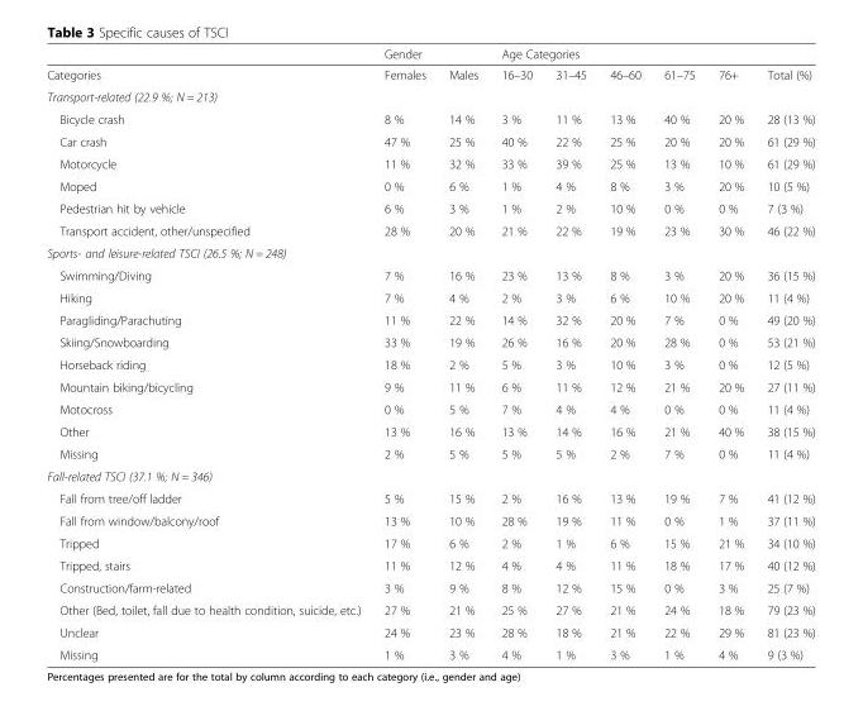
<table><thead><tr><td rowspan="2">Categories</td><td colspan="2">Gender</td><td colspan="6">Age Categories</td></tr><tr><td>Females</td><td>Males</td><td>16–30</td><td>31–45</td><td>46–60</td><td>61–75</td><td>76+</td><td>Total (%)</td></tr></thead><tbody><tr><td colspan="9">Transport-related (22.9 %; N = 213)</td></tr><tr><td>Bicycle crash</td><td>8 %</td><td>14 %</td><td>3 %</td><td>11 %</td><td>13 %</td><td>40 %</td><td>20 %</td><td>28 (13 %)</td></tr><tr><td>Car crash</td><td>47 %</td><td>25 %</td><td>40 %</td><td>22 %</td><td>25 %</td><td>20 %</td><td>20 %</td><td>61 (29 %)</td></tr><tr><td>Motorcycle</td><td>11 %</td><td>32 %</td><td>33 %</td><td>39 %</td><td>25 %</td><td>13 %</td><td>10 %</td><td>61 (29 %)</td></tr><tr><td>Moped</td><td>0 %</td><td>6 %</td><td>1 %</td><td>4 %</td><td>8 %</td><td>3 %</td><td>20 %</td><td>10 (5 %)</td></tr><tr><td>Pedestrian hit by vehicle</td><td>6 %</td><td>3 %</td><td>1 %</td><td>2 %</td><td>10 %</td><td>0 %</td><td>0 %</td><td>7 (3 %)</td></tr><tr><td>Transport accident, other/unspecified</td><td>28 %</td><td>20 %</td><td>21 %</td><td>22 %</td><td>19 %</td><td>23 %</td><td>30 %</td><td>46 (22 %)</td></tr><tr><td colspan="9">Sports- and leisure-related TSCI (26.5 %; N = 248)</td></tr><tr><td>Swimming/Diving</td><td>7 %</td><td>16 %</td><td>23 %</td><td>13 %</td><td>8 %</td><td>3 %</td><td>20 %</td><td>36 (15 %)</td></tr><tr><td>Hiking</td><td>7 %</td><td>4 %</td><td>2 %</td><td>3 %</td><td>6 %</td><td>10 %</td><td>20 %</td><td>11 (4 %)</td></tr><tr><td>Paragliding/Parachuting</td><td>11 %</td><td>22 %</td><td>14 %</td><td>32 %</td><td>20 %</td><td>7 %</td><td>0 %</td><td>49 (20 %)</td></tr><tr><td>Skiing/Snowboarding</td><td>33 %</td><td>19 %</td><td>26 %</td><td>16 %</td><td>20 %</td><td>28 %</td><td>0 %</td><td>53 (21 %)</td></tr><tr><td>Horseback riding</td><td>18 %</td><td>2 %</td><td>5 %</td><td>3 %</td><td>10 %</td><td>3 %</td><td>0 %</td><td>12 (5 %)</td></tr><tr><td>Mountain biking/bicycling</td><td>9 %</td><td>11 %</td><td>6 %</td><td>11 %</td><td>12 %</td><td>21 %</td><td>20 %</td><td>27 (11 %)</td></tr><tr><td>Motocross</td><td>0 %</td><td>5 %</td><td>7 %</td><td>4 %</td><td>4 %</td><td>0 %</td><td>0 %</td><td>11 (4 %)</td></tr><tr><td>Other</td><td>13 %</td><td>16 %</td><td>13 %</td><td>14 %</td><td>16 %</td><td>21 %</td><td>40 %</td><td>38 (15 %)</td></tr><tr><td>Missing</td><td>2 %</td><td>5 %</td><td>5 %</td><td>5 %</td><td>2 %</td><td>7 %</td><td>0 %</td><td>11 (4 %)</td></tr><tr><td colspan="9">Fall-related TSCI (37.1 %; N = 346)</td></tr><tr><td>Fall from tree/off ladder</td><td>5 %</td><td>15 %</td><td>2 %</td><td>16 %</td><td>13 %</td><td>19 %</td><td>7 %</td><td>41 (12 %)</td></tr><tr><td>Fall from window/balcony/roof</td><td>13 %</td><td>10 %</td><td>28 %</td><td>19 %</td><td>11 %</td><td>0 %</td><td>1 %</td><td>37 (11 %)</td></tr><tr><td>Tripped</td><td>17 %</td><td>6 %</td><td>2 %</td><td>1 %</td><td>6 %</td><td>15 %</td><td>21 %</td><td>34 (10 %)</td></tr><tr><td>Tripped, stairs</td><td>11 %</td><td>12 %</td><td>4 %</td><td>4 %</td><td>11 %</td><td>18 %</td><td>17 %</td><td>40 (12 %)</td></tr><tr><td>Construction/farm-related</td><td>3 %</td><td>9 %</td><td>8 %</td><td>12 %</td><td>15 %</td><td>0 %</td><td>3 %</td><td>25 (7 %)</td></tr><tr><td>Other (Bed, toilet, fall due to health condition, suicide, etc.)</td><td>27 %</td><td>21 %</td><td>25 %</td><td>27 %</td><td>21 %</td><td>24 %</td><td>18 %</td><td>79 (23 %)</td></tr><tr><td>Unclear</td><td>24 %</td><td>23 %</td><td>28 %</td><td>18 %</td><td>21 %</td><td>22 %</td><td>29 %</td><td>81 (23 %)</td></tr><tr><td>Missing</td><td>1 %</td><td>3 %</td><td>4 %</td><td>1 %</td><td>3 %</td><td>1 %</td><td>4 %</td><td>9 (3 %)</td></tr></tbody></table>